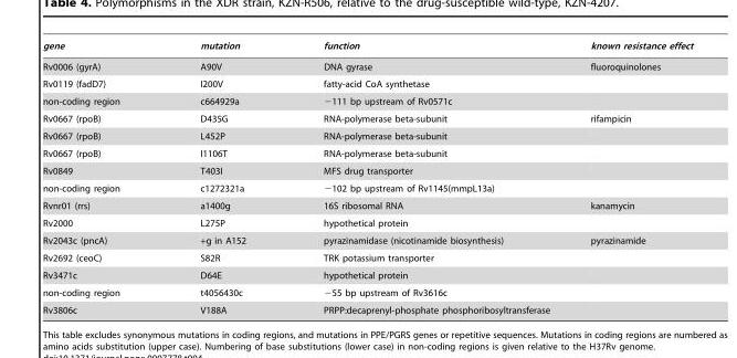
<table><thead><tr><td>gene</td><td>mutation</td><td>function</td><td>known resistance effect</td></tr></thead><tbody><tr><td>Rv0006 (gyrA)</td><td>A90V</td><td>DNA gyrase</td><td>fluoroquinolones</td></tr><tr><td>Rv0119 (fadD7)</td><td>I200V</td><td>fatty-acid CoA synthetase</td><td></td></tr><tr><td>non-coding region</td><td>c664929a</td><td>−111 bp upstream of Rv0571c</td><td></td></tr><tr><td>Rv0667 (rpoB)</td><td>D435G</td><td>RNA-polymerase beta-subunit</td><td>rifampicin</td></tr><tr><td>Rv0667 (rpoB)</td><td>L452P</td><td>RNA-polymerase beta-subunit</td><td></td></tr><tr><td>Rv0667 (rpoB)</td><td>I1106T</td><td>RNA-polymerase beta-subunit</td><td></td></tr><tr><td>Rv0849</td><td>T403I</td><td>MFS drug transporter</td><td></td></tr><tr><td>non-coding region</td><td>c1272321a</td><td>−102 bp upstream of Rv1145(mmpL13a)</td><td></td></tr><tr><td>Rvnr01 (rrs)</td><td>a1400g</td><td>16S ribosomal RNA</td><td>kanamycin</td></tr><tr><td>Rv2000</td><td>L275P</td><td>hypothetical protein</td><td></td></tr><tr><td>Rv2043c (pncA)</td><td>+g in A152</td><td>pyrazinamidase (nicotinamide biosynthesis)</td><td>pyrazinamide</td></tr><tr><td>Rv2692 (ceoC)</td><td>S82R</td><td>TRK potassium transporter</td><td></td></tr><tr><td>Rv3471c</td><td>D64E</td><td>hypothetical protein</td><td></td></tr><tr><td>non-coding region</td><td>t4056430c</td><td>−55 bp upstream of Rv3616c</td><td></td></tr><tr><td>Rv3806c</td><td>V188A</td><td>PRPP:decaprenyl-phosphate phosphoribosyltransferase</td><td></td></tr></tbody></table>